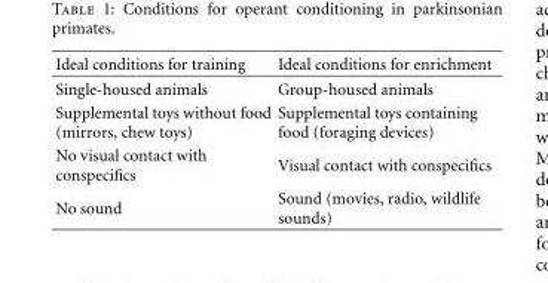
<table><thead><tr><td>Ideal conditions for training</td><td>Ideal conditions for enrichment</td></tr></thead><tbody><tr><td>Single-housed animals</td><td>Group-housed animals</td></tr><tr><td>Supplemental toys without food (mirrors, chew toys)</td><td>Supplemental toys containing food (foraging devices)</td></tr><tr><td>No visual contact with conspecifics</td><td>Visual contact with conspecifics</td></tr><tr><td>No sound</td><td>Sound (movies, radio, wildlife sounds)</td></tr></tbody></table>